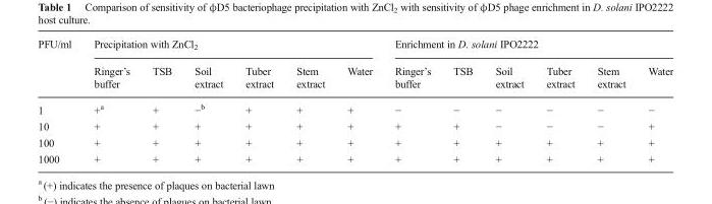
<table><thead><tr><td rowspan="2">PFU/ml</td><td colspan="6">Precipitation with ZnCl<sub>2</sub></td><td colspan="6">Enrichment in D. solani IPO2222</td></tr><tr><td>Ringer’s buffer</td><td>TSB</td><td>Soil extract</td><td>Tuber extract</td><td>Stem extract</td><td>Water</td><td>Ringer’s buffer</td><td>TSB</td><td>Soil extract</td><td>Tuber extract</td><td>Stem extract</td><td>Water</td></tr></thead><tbody><tr><td>1</td><td>+<sup>a</sup></td><td>+</td><td>−<sup>b</sup></td><td>+</td><td>+</td><td>+</td><td>−</td><td>−</td><td>−</td><td>−</td><td>−</td><td>−</td></tr><tr><td>10</td><td>+</td><td>+</td><td>+</td><td>+</td><td>+</td><td>+</td><td>+</td><td>+</td><td>−</td><td>−</td><td>−</td><td>+</td></tr><tr><td>100</td><td>+</td><td>+</td><td>+</td><td>+</td><td>+</td><td>+</td><td>+</td><td>+</td><td>+</td><td>+</td><td>+</td><td>+</td></tr><tr><td>1000</td><td>+</td><td>+</td><td>+</td><td>+</td><td>+</td><td>+</td><td>+</td><td>+</td><td>+</td><td>+</td><td>+</td><td>+</td></tr></tbody></table>